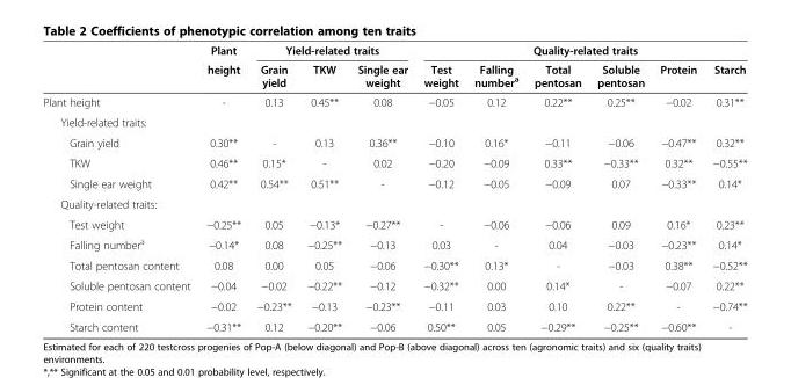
<table><thead><tr><td rowspan="2"></td><td rowspan="2">Plant height</td><td colspan="3">Yield-related traits</td><td colspan="6">Quality-related traits</td></tr><tr><td>Grain yield</td><td>TKW</td><td>Single ear weight</td><td>Test weight</td><td>Falling number<sup>a</sup></td><td>Total pentosan</td><td>Soluble pentosan</td><td>Protein</td><td>Starch</td></tr></thead><tbody><tr><td>Plant height</td><td>-</td><td>0.13</td><td>0.45**</td><td>0.08</td><td>−0.05</td><td>0.12</td><td>0.22**</td><td>0.25**</td><td>−0.02</td><td>0.31**</td></tr><tr><td colspan="11">Yield-related traits:</td></tr><tr><td>Grain yield</td><td>0.30**</td><td>-</td><td>0.13</td><td>0.36**</td><td>−0.10</td><td>0.16*</td><td>−0.11</td><td>−0.06</td><td>−0.47**</td><td>0.32**</td></tr><tr><td>TKW</td><td>0.46**</td><td>0.15*</td><td>-</td><td>0.02</td><td>−0.20</td><td>−0.09</td><td>0.33**</td><td>−0.33**</td><td>0.32**</td><td>−0.55**</td></tr><tr><td>Single ear weight</td><td>0.42**</td><td>0.54**</td><td>0.51**</td><td>-</td><td>−0.12</td><td>−0.05</td><td>−0.09</td><td>0.07</td><td>−0.33**</td><td>0.14*</td></tr><tr><td colspan="11">Quality-related traits:</td></tr><tr><td>Test weight</td><td>−0.25**</td><td>0.05</td><td>−0.13*</td><td>−0.27**</td><td>-</td><td>−0.06</td><td>−0.06</td><td>0.09</td><td>0.16*</td><td>0.23**</td></tr><tr><td>Falling number<sup>a</sup></td><td>−0.14*</td><td>0.08</td><td>−0.25**</td><td>−0.13</td><td>0.03</td><td>-</td><td>0.04</td><td>−0.03</td><td>−0.23**</td><td>0.14*</td></tr><tr><td>Total pentosan content</td><td>0.08</td><td>0.00</td><td>0.05</td><td>−0.06</td><td>−0.30**</td><td>0.13*</td><td>-</td><td>−0.03</td><td>0.38**</td><td>−0.52**</td></tr><tr><td>Soluble pentosan content</td><td>−0.04</td><td>−0.02</td><td>−0.22**</td><td>−0.12</td><td>−0.32**</td><td>0.00</td><td>0.14*</td><td>-</td><td>−0.07</td><td>0.22**</td></tr><tr><td>Protein content</td><td>−0.02</td><td>−0.23**</td><td>−0.13</td><td>−0.23**</td><td>−0.11</td><td>0.03</td><td>0.10</td><td>0.22**</td><td>-</td><td>−0.74**</td></tr><tr><td>Starch content</td><td>−0.31**</td><td>0.12</td><td>−0.20**</td><td>−0.06</td><td>0.50**</td><td>0.05</td><td>−0.29**</td><td>−0.25**</td><td>−0.60**</td><td>-</td></tr></tbody></table>